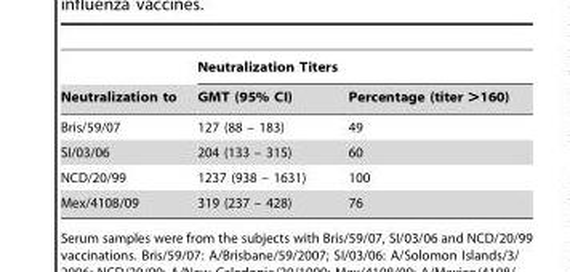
<table><thead><tr><td rowspan="2">Neutralization to</td><td colspan="2">Neutralization Titers</td></tr><tr><td>GMT (95% CI)</td><td>Percentage (titer &gt;160)</td></tr></thead><tbody><tr><td>Bris/59/07</td><td>127 (88 – 183)</td><td>49</td></tr><tr><td>SI/03/06</td><td>204 (133 – 315)</td><td>60</td></tr><tr><td>NCD/20/99</td><td>1237 (938 – 1631)</td><td>100</td></tr><tr><td>Mex/4108/09</td><td>319 (237 – 428)</td><td>76</td></tr></tbody></table>